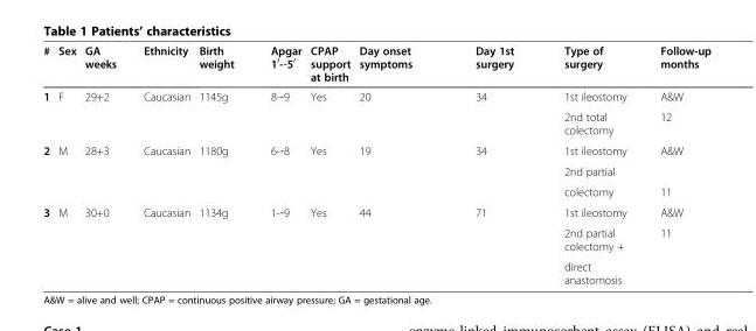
<table><thead><tr><td>#</td><td>Sex</td><td>GA weeks</td><td>Ethnicity</td><td>Birth weight</td><td>Apgar 10-‐50</td><td>CPAP support at birth</td><td>Day onset symptoms</td><td>Day 1st surgery</td><td>Type of surgery</td><td>Follow-up months</td></tr></thead><tbody><tr><td rowspan="2">1</td><td rowspan="2">F</td><td rowspan="2">29+2</td><td rowspan="2">Caucasian</td><td rowspan="2">1145g</td><td rowspan="2">8-‐9</td><td rowspan="2">Yes</td><td rowspan="2">20</td><td rowspan="2">34</td><td>1st ileostomy</td><td>A&amp;W</td></tr><tr><td>2nd total colectomy</td><td>12</td></tr><tr><td rowspan="3">2</td><td rowspan="3">M</td><td rowspan="3">28+3</td><td rowspan="3">Caucasian</td><td rowspan="3">1180g</td><td rowspan="3">6-‐8</td><td rowspan="3">Yes</td><td rowspan="3">19</td><td rowspan="3">34</td><td>1st ileostomy</td><td>A&amp;W</td></tr><tr><td>2nd partial</td><td></td></tr><tr><td>colectomy</td><td>11</td></tr><tr><td rowspan="3">3</td><td rowspan="3">M</td><td rowspan="3">30+0</td><td rowspan="3">Caucasian</td><td rowspan="3">1134g</td><td rowspan="3">1-‐9</td><td rowspan="3">Yes</td><td rowspan="3">44</td><td rowspan="3">71</td><td>1st ileostomy</td><td>A&amp;W</td></tr><tr><td>2nd partial colectomy +</td><td>11</td></tr><tr><td>direct anastomosis</td><td></td></tr></tbody></table>